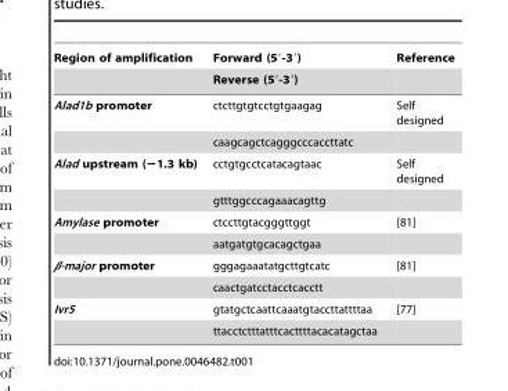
<table><thead><tr><td rowspan="2">Region of amplification</td><td rowspan="2">Forward (5′-3′) Reverse (5′-3′)</td><td rowspan="2">Reference</td></tr><tr></tr></thead><tbody><tr><td rowspan="2">Alad1b promoter</td><td>ctcttgtgtcctgtgaagag</td><td>Self designed</td></tr><tr><td>caagcagctcagggcccaccttatc</td><td></td></tr><tr><td rowspan="2">Alad upstream (−1.3 kb)</td><td>cctgtgcctcatacagtaac</td><td>Self designed</td></tr><tr><td>gtttggcccagaaacagttg</td><td></td></tr><tr><td rowspan="2">Amylase promoter</td><td>ctccttgtacgggttggt</td><td>[81]</td></tr><tr><td>aatgatgtgcacagctgaa</td><td></td></tr><tr><td rowspan="2">β-major promoter</td><td>gggagaaatatgcttgtcatc</td><td>[81]</td></tr><tr><td>caactgatcctacctcacctt</td><td></td></tr><tr><td rowspan="2">Ivr5</td><td>gtatgctcaattcaaatgtaccttattttaa</td><td>[77]</td></tr><tr><td>ttacctctttatttcacttttacacatagctaa</td><td></td></tr></tbody></table>